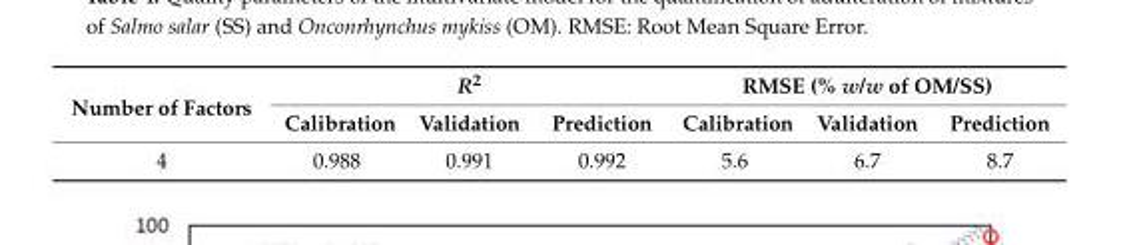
<table><thead><tr><td rowspan="2">Number of Factors</td><td colspan="3">R<sup>2</sup></td><td colspan="3">RMSE (% w/w of OM/SS)</td></tr><tr><td>Calibration</td><td>Validation</td><td>Prediction</td><td>Calibration</td><td>Validation</td><td>Prediction</td></tr></thead><tbody><tr><td>4</td><td>0.988</td><td>0.991</td><td>0.992</td><td>5.6</td><td>6.7</td><td>8.7</td></tr></tbody></table>